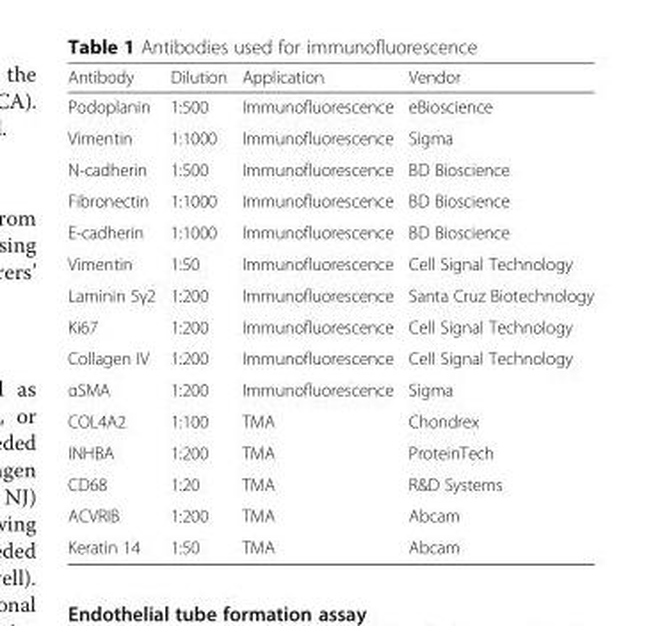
<table><thead><tr><td>Antibody</td><td>Dilution</td><td>Application</td><td>Vendor</td></tr></thead><tbody><tr><td>Podoplanin</td><td>1:500</td><td>Immunofluorescence</td><td>eBioscience</td></tr><tr><td>Vimentin</td><td>1:1000</td><td>Immunofluorescence</td><td>Sigma</td></tr><tr><td>N-cadherin</td><td>1:500</td><td>Immunofluorescence</td><td>BD Bioscience</td></tr><tr><td>Fibronectin</td><td>1:1000</td><td>Immunofluorescence</td><td>BD Bioscience</td></tr><tr><td>E-cadherin</td><td>1:1000</td><td>Immunofluorescence</td><td>BD Bioscience</td></tr><tr><td>Vimentin</td><td>1:50</td><td>Immunofluorescence</td><td>Cell Signal Technology</td></tr><tr><td>Laminin 5γ2</td><td>1:200</td><td>Immunofluorescence</td><td>Santa Cruz Biotechnology</td></tr><tr><td>Ki67</td><td>1:200</td><td>Immunofluorescence</td><td>Cell Signal Technology</td></tr><tr><td>Collagen IV</td><td>1:200</td><td>Immunofluorescence</td><td>Cell Signal Technology</td></tr><tr><td>αSMA</td><td>1:200</td><td>Immunofluorescence</td><td>Sigma</td></tr><tr><td>COL4A2</td><td>1:100</td><td>TMA</td><td>Chondrex</td></tr><tr><td>INHBA</td><td>1:200</td><td>TMA</td><td>ProteinTech</td></tr><tr><td>CD68</td><td>1:20</td><td>TMA</td><td>R&amp;D Systems</td></tr><tr><td>ACVRIB</td><td>1:200</td><td>TMA</td><td>Abcam</td></tr><tr><td>Keratin 14</td><td>1:50</td><td>TMA</td><td>Abcam</td></tr></tbody></table>